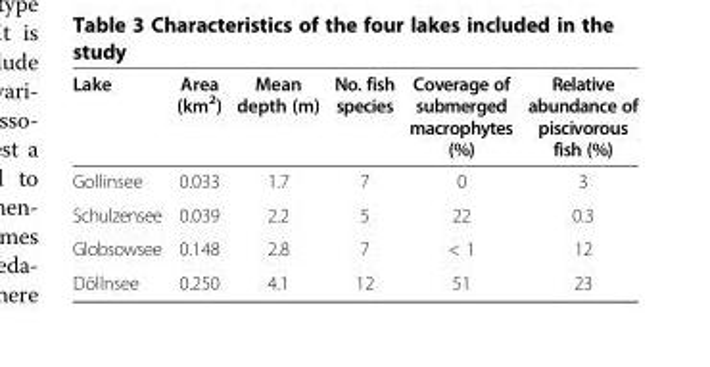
<table><thead><tr><td>Lake</td><td>Area (km<sup>2</sup>)</td><td>Mean depth (m)</td><td>No. fish species</td><td>Coverage of submerged macrophytes (%)</td><td>Relative abundance of piscivorous fish (%)</td></tr></thead><tbody><tr><td>Gollinsee</td><td>0.033</td><td>1.7</td><td>7</td><td>0</td><td>3</td></tr><tr><td>Schulzensee</td><td>0.039</td><td>2.2</td><td>5</td><td>22</td><td>0.3</td></tr><tr><td>Globsowsee</td><td>0.148</td><td>2.8</td><td>7</td><td>&lt; 1</td><td>12</td></tr><tr><td>Döllnsee</td><td>0.250</td><td>4.1</td><td>12</td><td>51</td><td>23</td></tr></tbody></table>